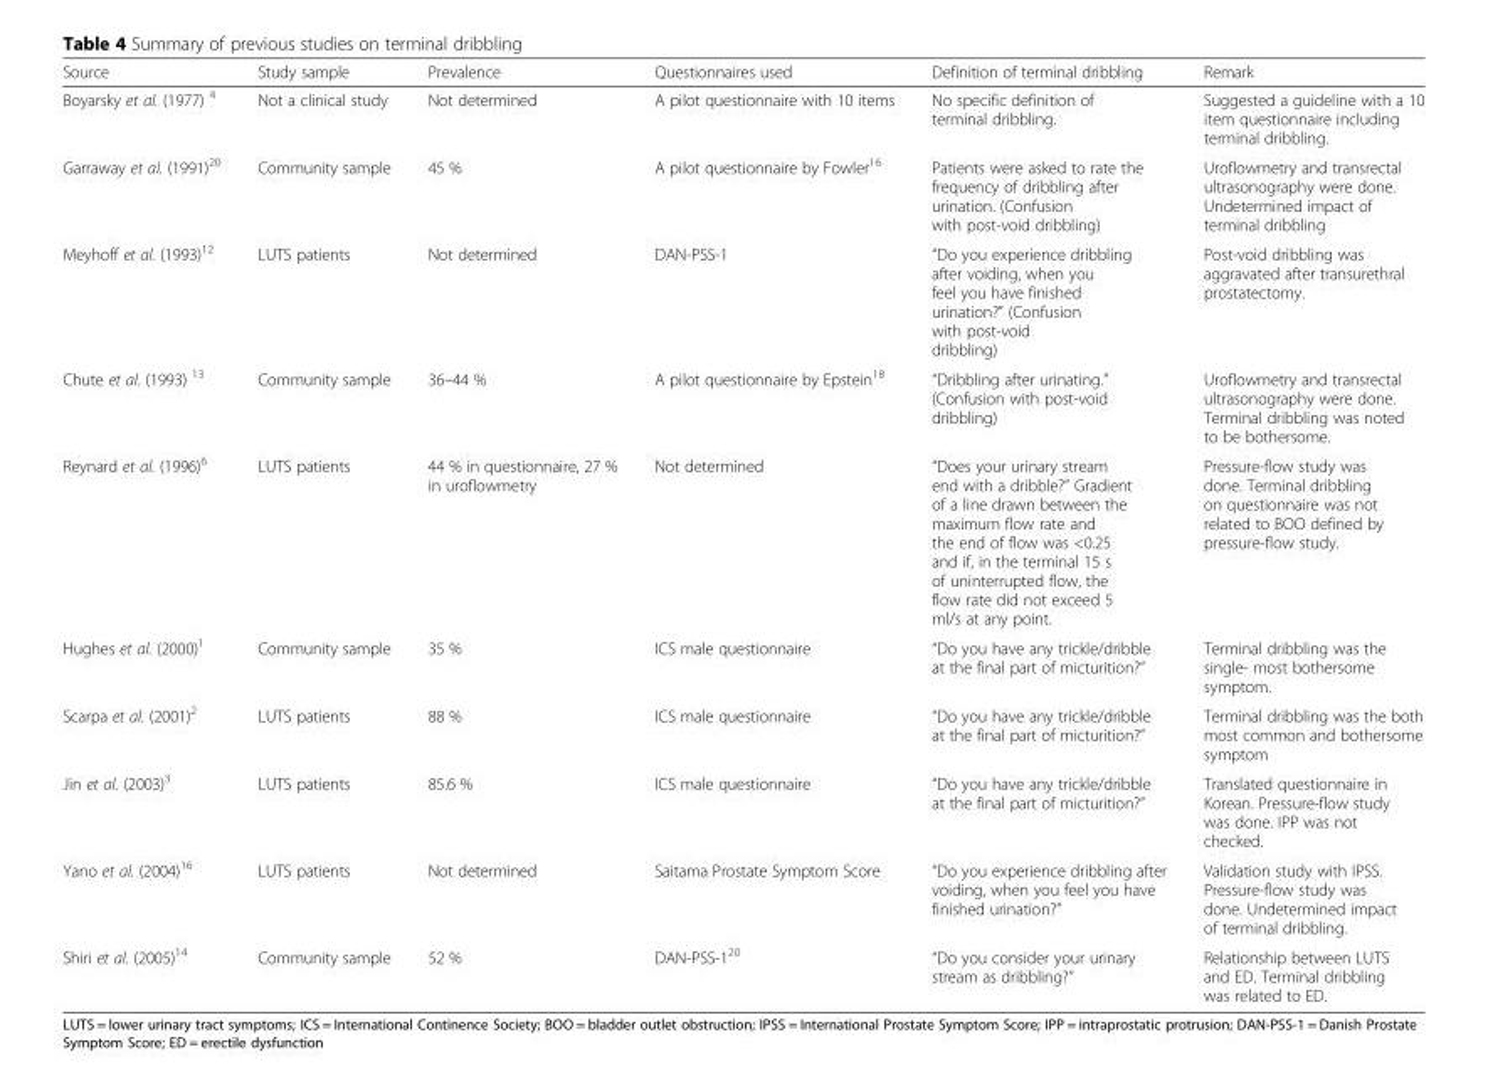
<table><thead><tr><td>Source</td><td>Study sample</td><td>Prevalence</td><td>Questionnaires used</td><td>Definition of terminal dribbling</td><td>Remark</td></tr></thead><tbody><tr><td>Boyarsky et al. (1977) <sup>4</sup></td><td>Not a clinical study</td><td>Not determined</td><td>A pilot questionnaire with 10 items</td><td>No specific definition of terminal dribbling.</td><td>Suggested a guideline with a 10 item questionnaire including terminal dribbling.</td></tr><tr><td>Garraway et al. (1991)<sup>20</sup></td><td>Community sample</td><td>45 %</td><td>A pilot questionnaire by Fowler<sup>16</sup></td><td>Patients were asked to rate the frequency of dribbling after urination. (Confusion with post-void dribbling)</td><td>Uroflowmetry and transrectal ultrasonography were done. Undetermined impact of terminal dribbling</td></tr><tr><td>Meyhoff et al. (1993)<sup>12</sup></td><td>LUTS patients</td><td>Not determined</td><td>DAN-PSS-1</td><td>“Do you experience dribbling after voiding, when you feel you have finished urination?” (Confusion with post-void dribbling)</td><td>Post-void dribbling was aggravated after transurethral prostatectomy.</td></tr><tr><td>Chute et al. (1993) <sup>13</sup></td><td>Community sample</td><td>36–44 %</td><td>A pilot questionnaire by Epstein<sup>18</sup></td><td>“Dribbling after urinating.” (Confusion with post-void dribbling)</td><td>Uroflowmetry and transrectal ultrasonography were done. Terminal dribbling was noted to be bothersome.</td></tr><tr><td>Reynard et al. (1996)<sup>6</sup></td><td>LUTS patients</td><td>44 % in questionnaire, 27 % in uroflowmetry</td><td>Not determined</td><td>“Does your urinary stream end with a dribble?” Gradient of a line drawn between the maximum flow rate and the end of flow was &lt;0.25 and if, in the terminal 15 s of uninterrupted flow, the flow rate did not exceed 5 ml/s at any point.</td><td>Pressure-flow study was done. Terminal dribbling on questionnaire was not related to BOO defined by pressure-flow study.</td></tr><tr><td>Hughes et al. (2000)<sup>1</sup></td><td>Community sample</td><td>35 %</td><td>ICS male questionnaire</td><td>“Do you have any trickle/dribble at the final part of micturition?”</td><td>Terminal dribbling was the single- most bothersome symptom.</td></tr><tr><td>Scarpa et al. (2001)<sup>2</sup></td><td>LUTS patients</td><td>88 %</td><td>ICS male questionnaire</td><td>“Do you have any trickle/dribble at the final part of micturition?”</td><td>Terminal dribbling was the both most common and bothersome symptom</td></tr><tr><td>Jin et al. (2003)<sup>3</sup></td><td>LUTS patients</td><td>85.6 %</td><td>ICS male questionnaire</td><td>“Do you have any trickle/dribble at the final part of micturition?”</td><td>Translated questionnaire in Korean. Pressure-flow study was done. IPP was not checked.</td></tr><tr><td>Yano et al. (2004)<sup>16</sup></td><td>LUTS patients</td><td>Not determined</td><td>Saitama Prostate Symptom Score</td><td>“Do you experience dribbling after voiding, when you feel you have finished urination?”</td><td>Validation study with IPSS. Pressure-flow study was done. Undetermined impact of terminal dribbling.</td></tr><tr><td>Shiri et al. (2005)<sup>14</sup></td><td>Community sample</td><td>52 %</td><td>DAN-PSS-1<sup>20</sup></td><td>“Do you consider your urinary stream as dribbling?”</td><td>Relationship between LUTS and ED. Terminal dribbling was related to ED.</td></tr></tbody></table>